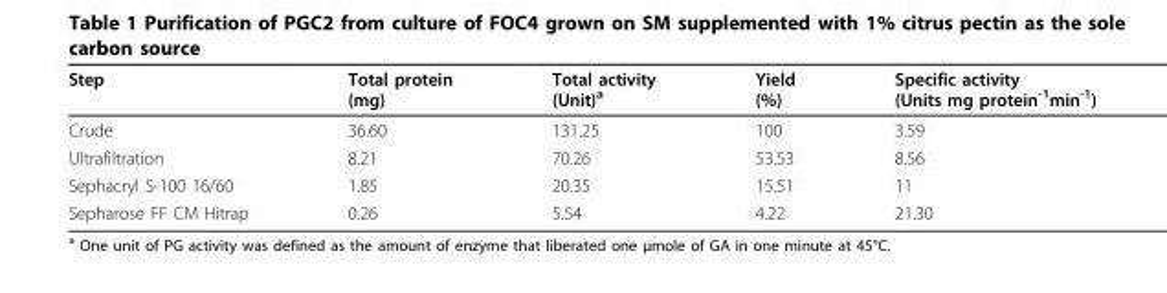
<table><thead><tr><td>Step</td><td>Total protein (mg)</td><td>Total activity (Unit)<sup>a</sup></td><td>Yield (%)</td><td>Specific activity (Units mg protein<sup>-1</sup>min<sup>-1</sup>)</td></tr></thead><tbody><tr><td>Crude</td><td>36.60</td><td>131.25</td><td>100</td><td>3.59</td></tr><tr><td>Ultrafiltration</td><td>8.21</td><td>70.26</td><td>53.53</td><td>8.56</td></tr><tr><td>Sephacryl S-100 16/60</td><td>1.85</td><td>20.35</td><td>15.51</td><td>11</td></tr><tr><td>Sepharose FF CM Hitrap</td><td>0.26</td><td>5.54</td><td>4.22</td><td>21.30</td></tr></tbody></table>